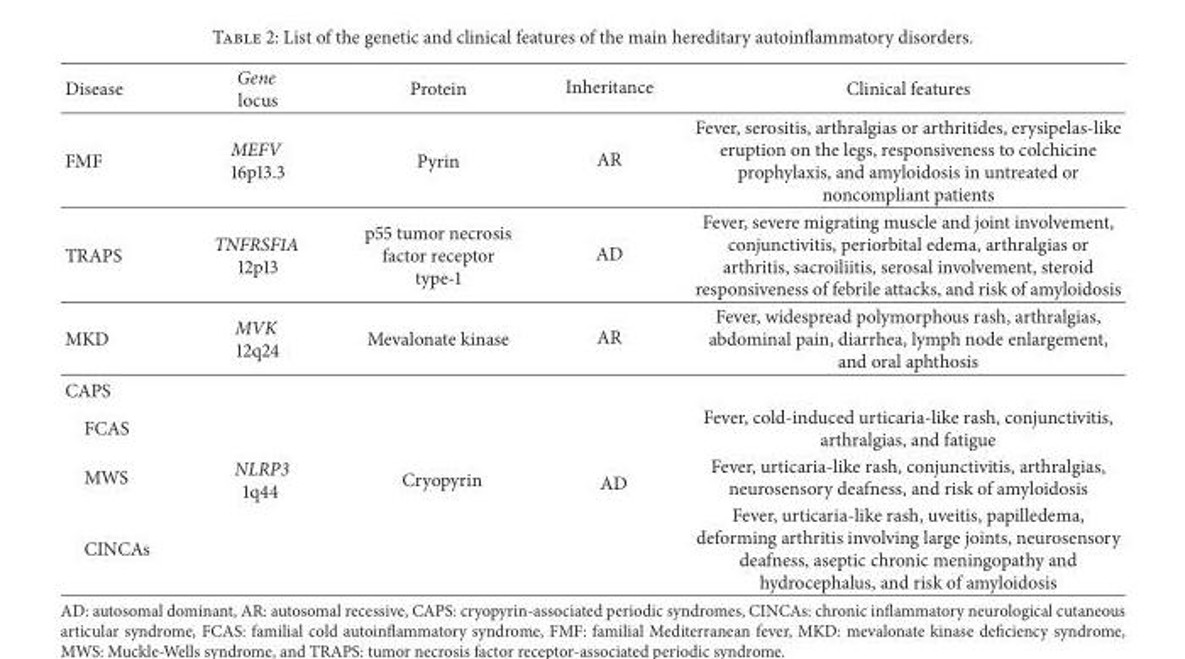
<table><thead><tr><td>Disease</td><td>Gene locus</td><td>Protein</td><td>Inheritance</td><td>Clinical features</td></tr></thead><tbody><tr><td>FMF</td><td>MEFV 16p13.3</td><td>Pyrin</td><td>AR</td><td>Fever, serositis, arthralgias or arthritides, erysipelas-like eruption on the legs, responsiveness to colchicine prophylaxis, and amyloidosis in untreated or noncompliant patients</td></tr><tr><td>TRAPS</td><td>TNFRSF1A 12p13</td><td>p55 tumor necrosis factor receptor type-1</td><td>AD</td><td>Fever, severe migrating muscle and joint involvement, conjunctivitis, periorbital edema, arthralgias or arthritis, sacroiliitis, serosal involvement, steroid responsiveness of febrile attacks, and risk of amyloidosis</td></tr><tr><td>MKD</td><td>MVK 12q24</td><td>Mevalonate kinase</td><td>AR</td><td>Fever, widespread polymorphous rash, arthralgias, abdominal pain, diarrhea, lymph node enlargement, and oral aphthosis</td></tr><tr><td colspan="5">CAPS</td></tr><tr><td>FCAS</td><td rowspan="3">NLRP3 1q44</td><td rowspan="3">Cryopyrin</td><td rowspan="3">AD</td><td>Fever, cold-induced urticaria-like rash, conjunctivitis, arthralgias, and fatigue</td></tr><tr><td>MWS</td><td>Fever, urticaria-like rash, conjunctivitis, arthralgias, neurosensory deafness, and risk of amyloidosis</td></tr><tr><td>CINCAs</td><td>Fever, urticaria-like rash, uveitis, papilledema, deforming arthritis involving large joints, neurosensory deafness, aseptic chronic meningopathy and hydrocephalus, and risk of amyloidosis</td></tr></tbody></table>